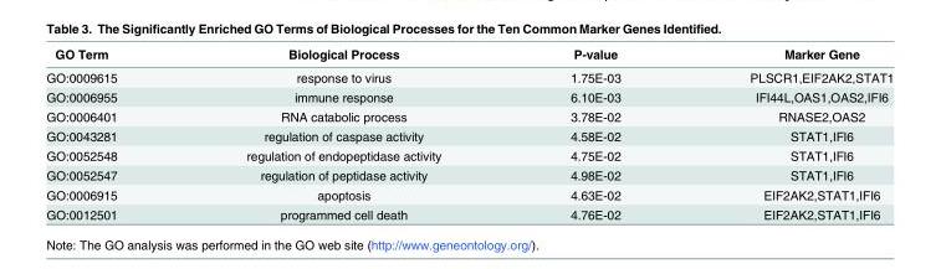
<table><thead><tr><td>GO Term</td><td>Biological Process</td><td>P-value</td><td>Marker Gene</td></tr></thead><tbody><tr><td>GO:0009615</td><td>response to virus</td><td>1.75E-03</td><td>PLSCR1,EIF2AK2,STAT1</td></tr><tr><td>GO:0006955</td><td>immune response</td><td>6.10E-03</td><td>IFI44L,OAS1,OAS2,IFI6</td></tr><tr><td>GO:0006401</td><td>RNA catabolic process</td><td>3.78E-02</td><td>RNASE2,OAS2</td></tr><tr><td>GO:0043281</td><td>regulation of caspase activity</td><td>4.58E-02</td><td>STAT1,IFI6</td></tr><tr><td>GO:0052548</td><td>regulation of endopeptidase activity</td><td>4.75E-02</td><td>STAT1,IFI6</td></tr><tr><td>GO:0052547</td><td>regulation of peptidase activity</td><td>4.98E-02</td><td>STAT1,IFI6</td></tr><tr><td>GO:0006915</td><td>apoptosis</td><td>4.63E-02</td><td>EIF2AK2,STAT1,IFI6</td></tr><tr><td>GO:0012501</td><td>programmed cell death</td><td>4.76E-02</td><td>EIF2AK2,STAT1,IFI6</td></tr></tbody></table>